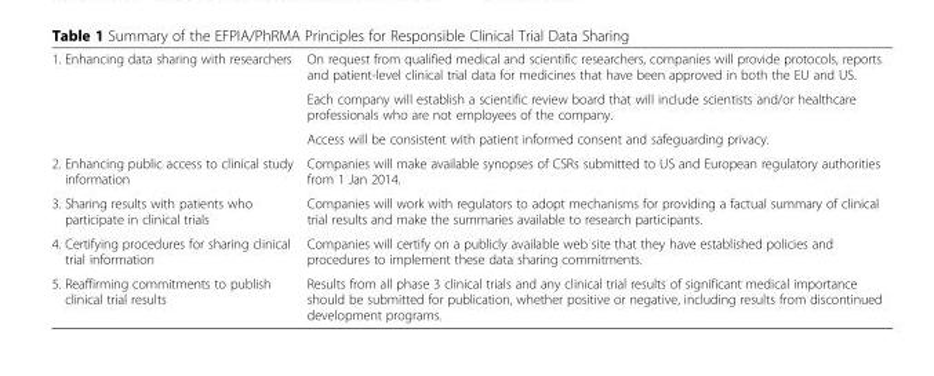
<table><tbody><tr><td rowspan="3">1. Enhancing data sharing with researchers</td><td>On request from qualified medical and scientific researchers, companies will provide protocols, reports and patient-level clinical trial data for medicines that have been approved in both the EU and US.</td></tr><tr><td>Each company will establish a scientific review board that will include scientists and/or healthcare professionals who are not employees of the company.</td></tr><tr><td>Access will be consistent with patient informed consent and safeguarding privacy.</td></tr><tr><td>2. Enhancing public access to clinical study information</td><td>Companies will make available synopses of CSRs submitted to US and European regulatory authorities from 1 Jan 2014.</td></tr><tr><td>3. Sharing results with patients who participate in clinical trials</td><td>Companies will work with regulators to adopt mechanisms for providing a factual summary of clinical trial results and make the summaries available to research participants.</td></tr><tr><td>4. Certifying procedures for sharing clinical trial information</td><td>Companies will certify on a publicly available web site that they have established policies and procedures to implement these data sharing commitments.</td></tr><tr><td>5. Reaffirming commitments to publish clinical trial results</td><td>Results from all phase 3 clinical trials and any clinical trial results of significant medical importance should be submitted for publication, whether positive or negative, including results from discontinued development programs.</td></tr></tbody></table>